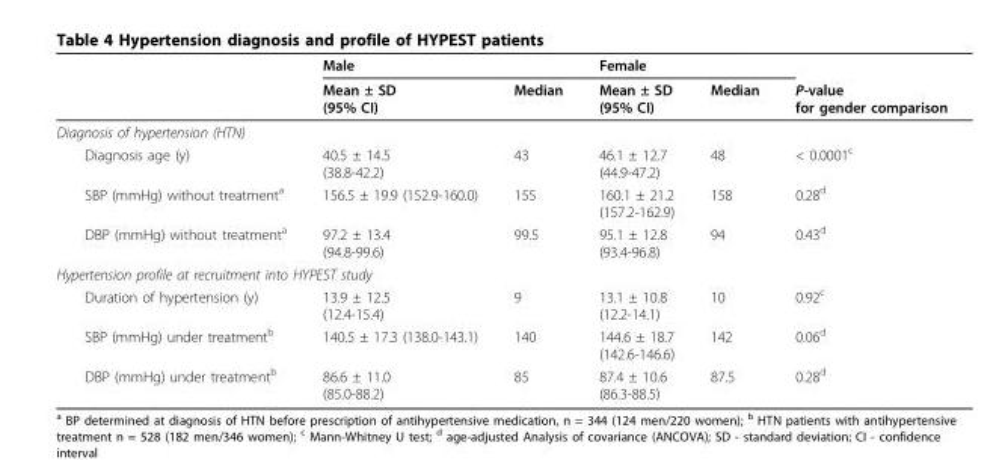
<table><thead><tr><td rowspan="2"></td><td colspan="2">Male</td><td colspan="2">Female</td><td rowspan="2">P-value for gender comparison</td></tr><tr><td>Mean ± SD (95% CI)</td><td>Median</td><td>Mean ± SD (95% CI)</td><td>Median</td></tr></thead><tbody><tr><td colspan="6">Diagnosis of hypertension (HTN)</td></tr><tr><td>Diagnosis age (y)</td><td>40.5 ± 14.5 (38.8-42.2)</td><td>43</td><td>46.1 ± 12.7 (44.9-47.2)</td><td>48</td><td>&lt; 0.0001<sup>c</sup></td></tr><tr><td>SBP (mmHg) without treatment<sup>a</sup></td><td>156.5 ± 19.9 (152.9-160.0)</td><td>155</td><td>160.1 ± 21.2 (157.2-162.9)</td><td>158</td><td>0.28<sup>d</sup></td></tr><tr><td>DBP (mmHg) without treatment<sup>a</sup></td><td>97.2 ± 13.4 (94.8-99.6)</td><td>99.5</td><td>95.1 ± 12.8 (93.4-96.8)</td><td>94</td><td>0.43<sup>d</sup></td></tr><tr><td colspan="6">Hypertension profile at recruitment into HYPEST study</td></tr><tr><td>Duration of hypertension (y)</td><td>13.9 ± 12.5 (12.4-15.4)</td><td>9</td><td>13.1 ± 10.8 (12.2-14.1)</td><td>10</td><td>0.92<sup>c</sup></td></tr><tr><td>SBP (mmHg) under treatment<sup>b</sup></td><td>140.5 ± 17.3 (138.0-143.1)</td><td>140</td><td>144.6 ± 18.7 (142.6-146.6)</td><td>142</td><td>0.06<sup>d</sup></td></tr><tr><td>DBP (mmHg) under treatment<sup>b</sup></td><td>86.6 ± 11.0 (85.0-88.2)</td><td>85</td><td>87.4 ± 10.6 (86.3-88.5)</td><td>87.5</td><td>0.28<sup>d</sup></td></tr></tbody></table>